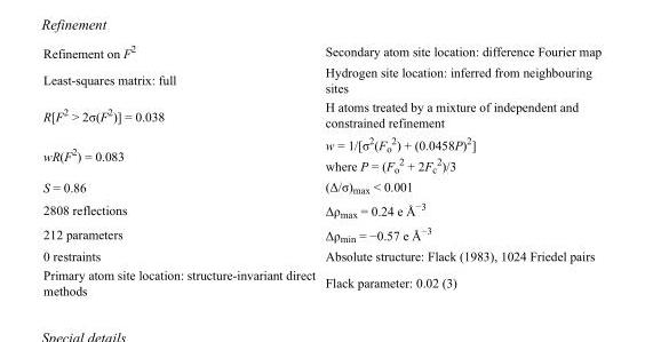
<table><tbody><tr><td>Refinement on F<sup>2</sup></td><td>Secondary atom site location: difference Fourier map</td></tr><tr><td>Least-squares matrix: full</td><td>Hydrogen site location: inferred from neighbouring sites</td></tr><tr><td>R[F<sup>2</sup> &gt; 2σ(F<sup>2</sup>)] = 0.038</td><td>H atoms treated by a mixture of independent and constrained refinement</td></tr><tr><td>wR(F<sup>2</sup>) = 0.083</td><td>w = 1/[σ<sup>2</sup>(F<sub>o</sub> <sup>2</sup>) + (0.0458P)<sup>2</sup>] where P = (F<sub>o</sub> <sup>2</sup> + 2F<sub>c</sub> <sup>2</sup>)/3</td></tr><tr><td>S = 0.86</td><td>(Δ/σ)<sub>max</sub> &lt; 0.001</td></tr><tr><td>2808 reflections</td><td>Δρ<sub>max</sub> = 0.24 e Å<sup>−3</sup></td></tr><tr><td>212 parameters</td><td>Δρ<sub>min</sub> = −0.57 e Å<sup>−3</sup></td></tr><tr><td>0 restraints</td><td>Absolute structure: Flack (1983), 1024 Friedel pairs</td></tr><tr><td>Primary atom site location: structure-invariant direct methods</td><td>Flack parameter: 0.02 (3)</td></tr></tbody></table>